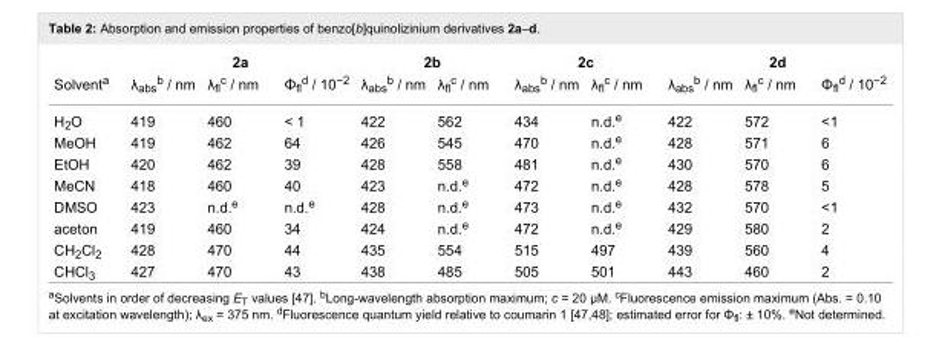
<table><thead><tr><td rowspan="2">Solvent<sup>a</sup></td><td colspan="3">2a</td><td colspan="2">2b</td><td colspan="2">2c</td><td colspan="3">2d</td></tr><tr><td>λ<sub>abs</sub><sup>b</sup> / nm</td><td>λ<sub>fl</sub><sup>c</sup> / nm</td><td>Φ<sub>fl</sub><sup>d</sup> / 10<sup>−2</sup></td><td>λ<sub>abs</sub><sup>b</sup> / nm</td><td>λ<sub>fl</sub><sup>c</sup> / nm</td><td>λ<sub>abs</sub><sup>b</sup> / nm</td><td>λ<sub>fl</sub><sup>c</sup> / nm</td><td>λ<sub>abs</sub><sup>b</sup> / nm</td><td>λ<sub>fl</sub><sup>c</sup> / nm</td><td>Φ<sub>fl</sub><sup>d</sup> / 10<sup>−2</sup></td></tr></thead><tbody><tr><td>H<sub>2</sub>O</td><td>419</td><td>460</td><td>&lt; 1</td><td>422</td><td>562</td><td>434</td><td>n.d.<sup>e</sup></td><td>422</td><td>572</td><td>&lt;1</td></tr><tr><td>MeOH</td><td>419</td><td>462</td><td>64</td><td>426</td><td>545</td><td>470</td><td>n.d.<sup>e</sup></td><td>428</td><td>571</td><td>6</td></tr><tr><td>EtOH</td><td>420</td><td>462</td><td>39</td><td>428</td><td>558</td><td>481</td><td>n.d.<sup>e</sup></td><td>430</td><td>570</td><td>6</td></tr><tr><td>MeCN</td><td>418</td><td>460</td><td>40</td><td>423</td><td>n.d.<sup>e</sup></td><td>472</td><td>n.d.<sup>e</sup></td><td>428</td><td>578</td><td>5</td></tr><tr><td>DMSO</td><td>423</td><td>n.d.<sup>e</sup></td><td>n.d.<sup>e</sup></td><td>428</td><td>n.d.<sup>e</sup></td><td>473</td><td>n.d.<sup>e</sup></td><td>432</td><td>570</td><td>&lt;1</td></tr><tr><td>aceton</td><td>419</td><td>460</td><td>34</td><td>424</td><td>n.d.<sup>e</sup></td><td>472</td><td>n.d.<sup>e</sup></td><td>429</td><td>580</td><td>2</td></tr><tr><td>CH<sub>2</sub>Cl<sub>2</sub></td><td>428</td><td>470</td><td>44</td><td>435</td><td>554</td><td>515</td><td>497</td><td>439</td><td>560</td><td>4</td></tr><tr><td>CHCl<sub>3</sub></td><td>427</td><td>470</td><td>43</td><td>438</td><td>485</td><td>505</td><td>501</td><td>443</td><td>460</td><td>2</td></tr></tbody></table>